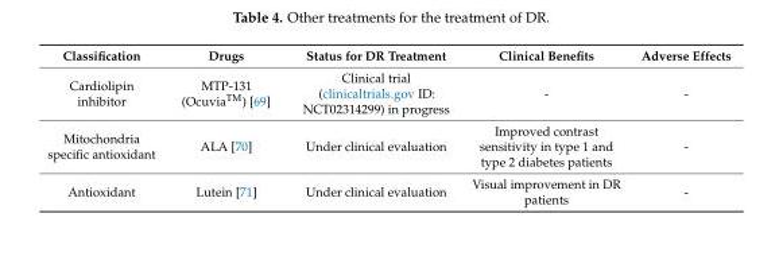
<table><thead><tr><td>Classification</td><td>Drugs</td><td>Status for DR Treatment</td><td>Clinical Benefits</td><td>Adverse Effects</td></tr></thead><tbody><tr><td>Cardiolipin inhibitor</td><td>MTP-131 (Ocuvia<sup>TM</sup>) [69]</td><td>Clinical trial (clinicaltrials.gov ID: NCT02314299) in progress</td><td>-</td><td>-</td></tr><tr><td>Mitochondria specific antioxidant</td><td>ALA [70]</td><td>Under clinical evaluation</td><td>Improved contrast sensitivity in type 1 and type 2 diabetes patients</td><td>-</td></tr><tr><td>Antioxidant</td><td>Lutein [71]</td><td>Under clinical evaluation</td><td>Visual improvement in DR patients</td><td>-</td></tr></tbody></table>